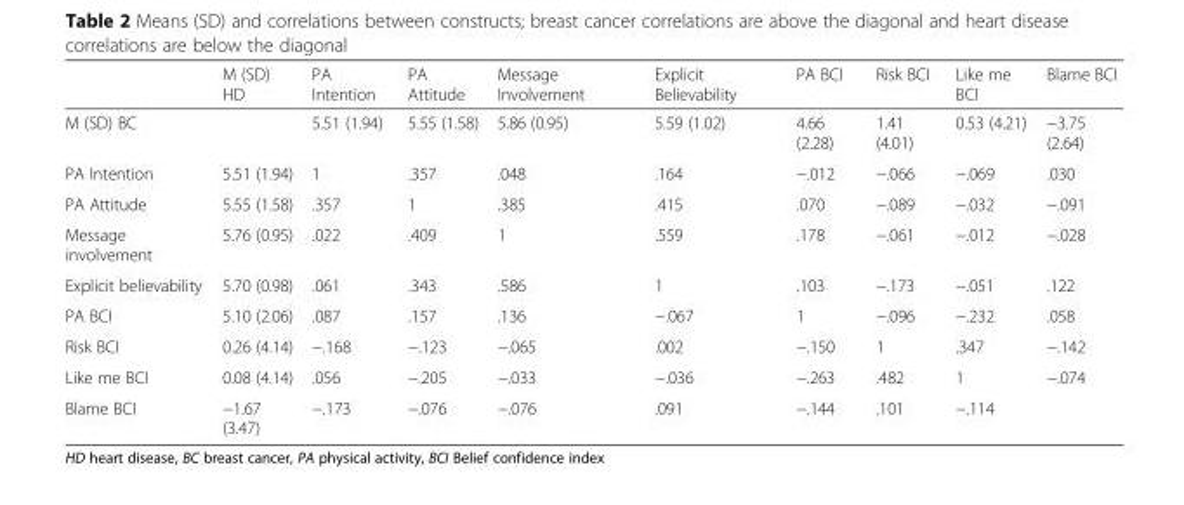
<table><thead><tr><td></td><td>M (SD) HD</td><td>PA Intention</td><td>PA Attitude</td><td>Message Involvement</td><td>Explicit Believability</td><td>PA BCI</td><td>Risk BCI</td><td>Like me BCI</td><td>Blame BCI</td></tr></thead><tbody><tr><td>M (SD) BC</td><td></td><td>5.51 (1.94)</td><td>5.55 (1.58)</td><td>5.86 (0.95)</td><td>5.59 (1.02)</td><td>4.66 (2.28)</td><td>1.41 (4.01)</td><td>0.53 (4.21)</td><td>−3.75 (2.64)</td></tr><tr><td>PA Intention</td><td>5.51 (1.94)</td><td>1</td><td>.357</td><td>.048</td><td>.164</td><td>−.012</td><td>−.066</td><td>−.069</td><td>.030</td></tr><tr><td>PA Attitude</td><td>5.55 (1.58)</td><td>.357</td><td>1</td><td>.385</td><td>.415</td><td>.070</td><td>−.089</td><td>−.032</td><td>−.091</td></tr><tr><td>Message involvement</td><td>5.76 (0.95)</td><td>.022</td><td>.409</td><td>1</td><td>.559</td><td>.178</td><td>−.061</td><td>−.012</td><td>−.028</td></tr><tr><td>Explicit believability</td><td>5.70 (0.98)</td><td>.061</td><td>.343</td><td>.586</td><td>1</td><td>.103</td><td>−.173</td><td>−.051</td><td>.122</td></tr><tr><td>PA BCI</td><td>5.10 (2.06)</td><td>.087</td><td>.157</td><td>.136</td><td>−.067</td><td>1</td><td>−.096</td><td>−.232</td><td>.058</td></tr><tr><td>Risk BCI</td><td>0.26 (4.14)</td><td>−.168</td><td>−.123</td><td>−.065</td><td>.002</td><td>−.150</td><td>1</td><td>.347</td><td>−.142</td></tr><tr><td>Like me BCI</td><td>0.08 (4.14)</td><td>.056</td><td>−.205</td><td>−.033</td><td>−.036</td><td>−.263</td><td>.482</td><td>1</td><td>−.074</td></tr><tr><td>Blame BCI</td><td>−1.67 (3.47)</td><td>−.173</td><td>−.076</td><td>−.076</td><td>.091</td><td>−.144</td><td>.101</td><td>−.114</td><td></td></tr></tbody></table>